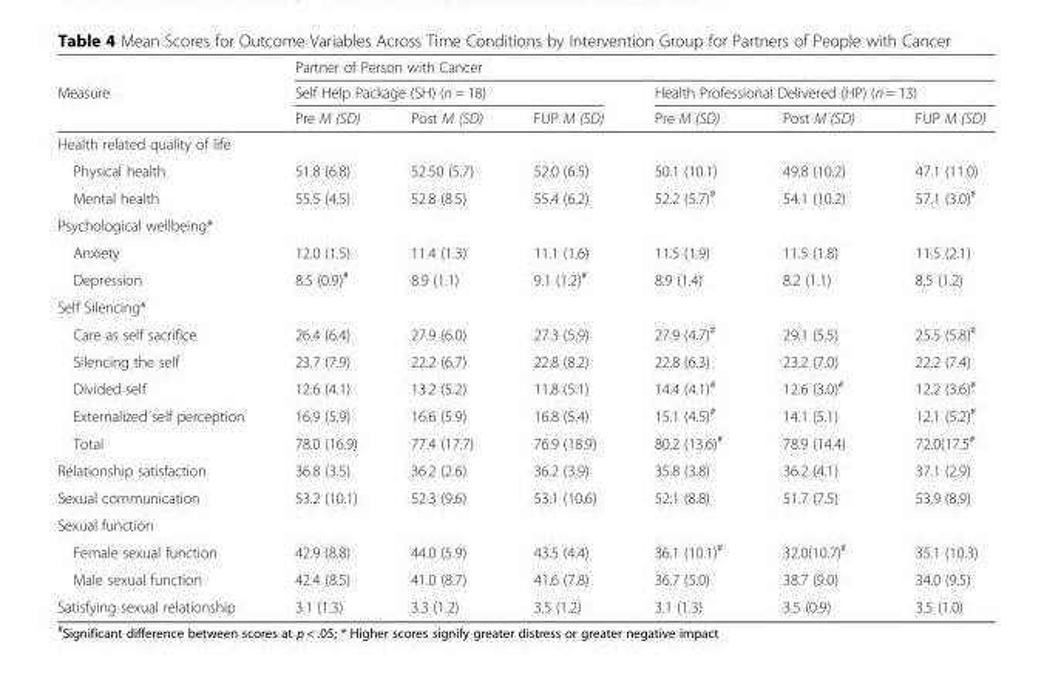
<table><thead><tr><td rowspan="3">Measure</td><td colspan="6">Partner of Person with Cancer</td></tr><tr><td colspan="3">Self Help Package (SH) (n = 18)</td><td colspan="3">Health Professional Delivered (HP) (n = 13)</td></tr><tr><td>Pre M (SD)</td><td>Post M (SD)</td><td>FUP M (SD)</td><td>Pre M (SD)</td><td>Post M (SD)</td><td>FUP M (SD)</td></tr></thead><tbody><tr><td colspan="7">Health related quality of life</td></tr><tr><td>Physical health</td><td>51.8 (6.8)</td><td>52.50 (5.7)</td><td>52.0 (6.5)</td><td>50.1 (10.1)</td><td>49.8 (10.2)</td><td>47.1 (11.0)</td></tr><tr><td>Mental health</td><td>55.5 (4.5)</td><td>52.8 (8.5)</td><td>55.4 (6.2)</td><td>52.2 (5.7)<sup>#</sup></td><td>54.1 (10.2)</td><td>57.1 (3.0)<sup>#</sup></td></tr><tr><td colspan="7">Psychological wellbeing*</td></tr><tr><td>Anxiety</td><td>12.0 (1.5)</td><td>11.4 (1.3)</td><td>11.1 (1.6)</td><td>11.5 (1.9)</td><td>11.5 (1.8)</td><td>11.5 (2.1)</td></tr><tr><td>Depression</td><td>8.5 (0.9)<sup>#</sup></td><td>8.9 (1.1)</td><td>9.1 (1.2)<sup>#</sup></td><td>8.9 (1.4)</td><td>8.2 (1.1)</td><td>8.5 (1.2)</td></tr><tr><td colspan="7">Self Silencing*</td></tr><tr><td>Care as self sacrifice</td><td>26.4 (6.4)</td><td>27.9 (6.0)</td><td>27.3 (5.9)</td><td>27.9 (4.7)<sup>#</sup></td><td>29.1 (5.5)</td><td>25.5 (5.8)<sup>#</sup></td></tr><tr><td>Silencing the self</td><td>23.7 (7.9)</td><td>22.2 (6.7)</td><td>22.8 (8.2)</td><td>22.8 (6.3)</td><td>23.2 (7.0)</td><td>22.2 (7.4)</td></tr><tr><td>Divided self</td><td>12.6 (4.1)</td><td>13.2 (5.2)</td><td>11.8 (5.1)</td><td>14.4 (4.1)<sup>#</sup></td><td>12.6 (3.0)<sup>#</sup></td><td>12.2 (3.6)<sup>#</sup></td></tr><tr><td>Externalized self perception</td><td>16.9 (5.9)</td><td>16.6 (5.9)</td><td>16.8 (5.4)</td><td>15.1 (4.5)<sup>#</sup></td><td>14.1 (5.1)</td><td>12.1 (5.2)<sup>#</sup></td></tr><tr><td>Total</td><td>78.0 (16.9)</td><td>77.4 (17.7)</td><td>76.9 (18.9)</td><td>80.2 (13.6)<sup>#</sup></td><td>78.9 (14.4)</td><td>72.0(17.5<sup>#</sup></td></tr><tr><td>Relationship satisfaction</td><td>36.8 (3.5)</td><td>36.2 (2.6)</td><td>36.2 (3.9)</td><td>35.8 (3.8)</td><td>36.2 (4.1)</td><td>37.1 (2.9)</td></tr><tr><td>Sexual communication</td><td>53.2 (10.1)</td><td>52.3 (9.6)</td><td>53.1 (10.6)</td><td>52.1 (8.8)</td><td>51.7 (7.5)</td><td>53.9 (8.9)</td></tr><tr><td colspan="7">Sexual function</td></tr><tr><td>Female sexual function</td><td>42.9 (8.8)</td><td>44.0 (5.9)</td><td>43.5 (4.4)</td><td>36.1 (10.1)<sup>#</sup></td><td>32.0(10.7)<sup>#</sup></td><td>35.1 (10.3)</td></tr><tr><td>Male sexual function</td><td>42.4 (8.5)</td><td>41.0 (8.7)</td><td>41.6 (7.8)</td><td>36.7 (5.0)</td><td>38.7 (9.0)</td><td>34.0 (9.5)</td></tr><tr><td>Satisfying sexual relationship</td><td>3.1 (1.3)</td><td>3.3 (1.2)</td><td>3.5 (1.2)</td><td>3.1 (1.3)</td><td>3.5 (0.9)</td><td>3.5 (1.0)</td></tr></tbody></table>